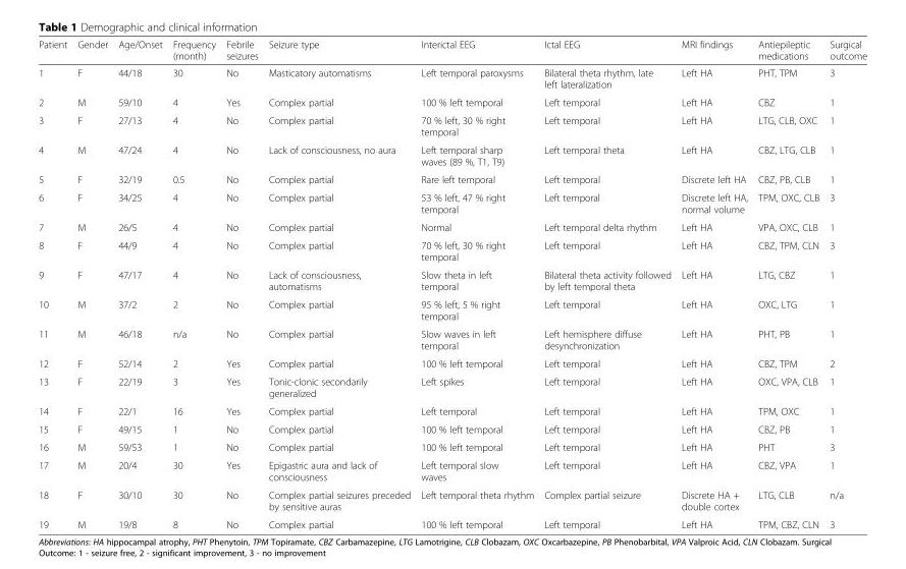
<table><thead><tr><td>Patient</td><td>Gender</td><td>Age/Onset</td><td>Frequency (month)</td><td>Febrile seizures</td><td>Seizure type</td><td>Interictal EEG</td><td>Ictal EEG</td><td>MRI findings</td><td>Antiepileptic medications</td><td>Surgical outcome</td></tr></thead><tbody><tr><td>1</td><td>F</td><td>44/18</td><td>30</td><td>No</td><td>Masticatory automatisms</td><td>Left temporal paroxysms</td><td>Bilateral theta rhythm, late left lateralization</td><td>Left HA</td><td>PHT, TPM</td><td>3</td></tr><tr><td>2</td><td>M</td><td>59/10</td><td>4</td><td>Yes</td><td>Complex partial</td><td>100 % left temporal</td><td>Left temporal</td><td>Left HA</td><td>CBZ</td><td>1</td></tr><tr><td>3</td><td>F</td><td>27/13</td><td>4</td><td>No</td><td>Complex partial</td><td>70 % left, 30 % right temporal</td><td>Left temporal</td><td>Left HA</td><td>LTG, CLB, OXC</td><td>1</td></tr><tr><td>4</td><td>M</td><td>47/24</td><td>4</td><td>No</td><td>Lack of consciousness, no aura</td><td>Left temporal sharp waves (89 %, T1, T9)</td><td>Left temporal theta</td><td>Left HA</td><td>CBZ, LTG, CLB</td><td>1</td></tr><tr><td>5</td><td>F</td><td>32/19</td><td>0.5</td><td>No</td><td>Complex partial</td><td>Rare left temporal</td><td>Left temporal</td><td>Discrete left HA</td><td>CBZ, PB, CLB</td><td>1</td></tr><tr><td>6</td><td>F</td><td>34/25</td><td>4</td><td>No</td><td>Complex partial</td><td>53 % left, 47 % right temporal</td><td>Left temporal</td><td>Discrete left HA, normal volume</td><td>TPM, OXC, CLB</td><td>3</td></tr><tr><td>7</td><td>M</td><td>26/5</td><td>4</td><td>No</td><td>Complex partial</td><td>Normal</td><td>Left temporal delta rhythm</td><td>Left HA</td><td>VPA, OXC, CLB</td><td>1</td></tr><tr><td>8</td><td>F</td><td>44/9</td><td>4</td><td>No</td><td>Complex partial</td><td>70 % left, 30 % right temporal</td><td>Left temporal</td><td>Left HA</td><td>CBZ, TPM, CLN</td><td>3</td></tr><tr><td>9</td><td>F</td><td>47/17</td><td>4</td><td>No</td><td>Lack of consciousness, automatisms</td><td>Slow theta in left temporal</td><td>Bilateral theta activity followed by left temporal theta</td><td>Left HA</td><td>LTG, CBZ</td><td>1</td></tr><tr><td>10</td><td>M</td><td>37/2</td><td>2</td><td>No</td><td>Complex partial</td><td>95 % left, 5 % right temporal</td><td>Left temporal</td><td>Left HA</td><td>OXC, LTG</td><td>1</td></tr><tr><td>11</td><td>M</td><td>46/18</td><td>n/a</td><td>No</td><td>Complex partial</td><td>Slow waves in left temporal</td><td>Left hemisphere diffuse desynchronization</td><td>Left HA</td><td>PHT, PB</td><td>1</td></tr><tr><td>12</td><td>F</td><td>52/14</td><td>2</td><td>Yes</td><td>Complex partial</td><td>100 % left temporal</td><td>Left temporal</td><td>Left HA</td><td>CBZ, TPM</td><td>2</td></tr><tr><td>13</td><td>F</td><td>22/19</td><td>3</td><td>Yes</td><td>Tonic-clonic secondarily generalized</td><td>Left spikes</td><td>Left temporal</td><td>Left HA</td><td>OXC, VPA, CLB</td><td>1</td></tr><tr><td>14</td><td>F</td><td>22/1</td><td>16</td><td>Yes</td><td>Complex partial</td><td>Left temporal</td><td>Left temporal</td><td>Left HA</td><td>TPM, OXC</td><td>1</td></tr><tr><td>15</td><td>F</td><td>49/15</td><td>1</td><td>No</td><td>Complex partial</td><td>100 % left temporal</td><td>Left temporal</td><td>Left HA</td><td>CBZ, PB</td><td>1</td></tr><tr><td>16</td><td>M</td><td>59/53</td><td>1</td><td>No</td><td>Complex partial</td><td>100 % left temporal</td><td>Left temporal</td><td>Left HA</td><td>PHT</td><td>3</td></tr><tr><td>17</td><td>M</td><td>20/4</td><td>30</td><td>Yes</td><td>Epigastric aura and lack of consciousness</td><td>Left temporal slow waves</td><td>Left temporal</td><td>Left HA</td><td>CBZ, VPA</td><td>1</td></tr><tr><td>18</td><td>F</td><td>30/10</td><td>30</td><td>No</td><td>Complex partial seizures preceded by sensitive auras</td><td>Left temporal theta rhythm</td><td>Complex partial seizure</td><td>Discrete HA + double cortex</td><td>LTG, CLB</td><td>n/a</td></tr><tr><td>19</td><td>M</td><td>19/8</td><td>8</td><td>No</td><td>Complex partial</td><td>100 % left temporal</td><td>Left temporal</td><td>Left HA</td><td>TPM, CBZ, CLN</td><td>3</td></tr></tbody></table>